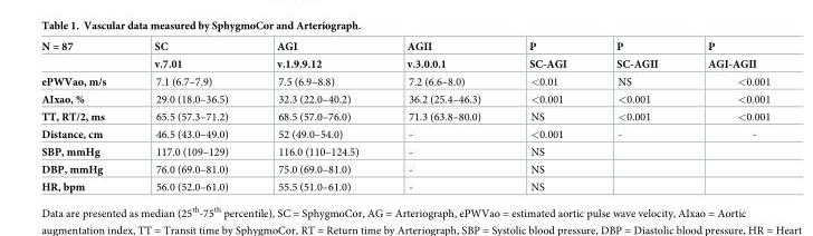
<table><thead><tr><td rowspan="2">N = 87</td><td rowspan="2">SC v.7.01</td><td rowspan="2">AGI v.1.9.9.12</td><td rowspan="2">AGII v.3.0.0.1</td><td rowspan="2">P SC-AGI</td><td rowspan="2">P SC-AGII</td><td rowspan="2">P AGI-AGII</td></tr><tr></tr></thead><tbody><tr><td>ePWVao, m/s</td><td>7.1 (6.7–7.9)</td><td>7.5 (6.9–8.8)</td><td>7.2 (6.6–8.0)</td><td>&lt;0.01</td><td>NS</td><td>&lt;0.001</td></tr><tr><td>AIxao, %</td><td>29.0 (18.0–36.5)</td><td>32.3 (22.0–40.2)</td><td>36.2 (25.4–46.3)</td><td>&lt;0.001</td><td>&lt;0.001</td><td>&lt;0.001</td></tr><tr><td>TT, RT/2, ms</td><td>65.5 (57.3–71.2)</td><td>68.5 (57.0–76.0)</td><td>71.3 (63.8–80.0)</td><td>NS</td><td>&lt;0.001</td><td>&lt;0.001</td></tr><tr><td>Distance, cm</td><td>46.5 (43.0–49.0)</td><td>52 (49.0–54.0)</td><td>-</td><td>&lt;0.001</td><td>-</td><td>-</td></tr><tr><td>SBP, mmHg</td><td>117.0 (109–129)</td><td>116.0 (110–124.5)</td><td>-</td><td>NS</td><td></td><td></td></tr><tr><td>DBP, mmHg</td><td>76.0 (69.0–81.0)</td><td>75.0 (69.0–81.0)</td><td>-</td><td>NS</td><td></td><td></td></tr><tr><td>HR, bpm</td><td>56.0 (52.0–61.0)</td><td>55.5 (51.0–61.0)</td><td>-</td><td>NS</td><td></td><td></td></tr></tbody></table>